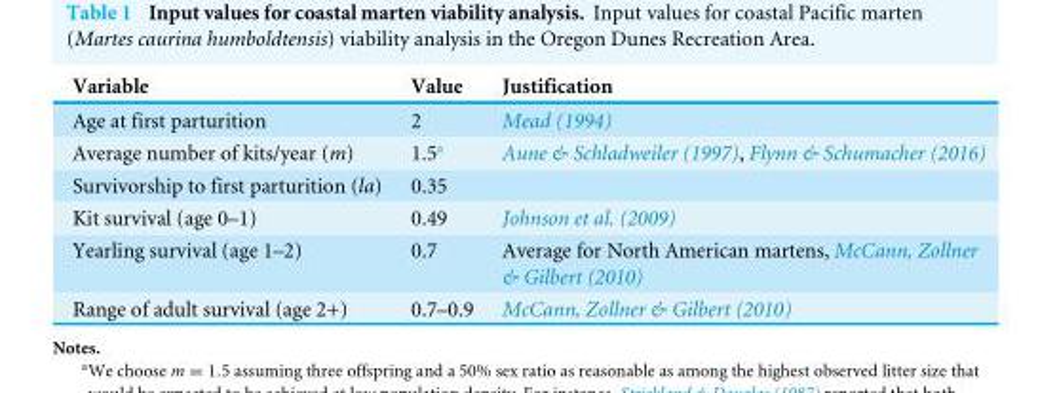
<table><thead><tr><td>Variable</td><td>Value</td><td>Justification</td></tr></thead><tbody><tr><td>Age at first parturition</td><td>2</td><td>Mead (1994)</td></tr><tr><td>Average number of kits/year (m)</td><td>1.5<sup>a</sup></td><td>Aune &amp; Schladweiler (1997), Flynn &amp; Schumacher (2016)</td></tr><tr><td>Survivorship to first parturition (la)</td><td>0.35</td><td></td></tr><tr><td>Kit survival (age 0–1)</td><td>0.49</td><td>Johnson et al. (2009)</td></tr><tr><td>Yearling survival (age 1–2)</td><td>0.7</td><td>Average for North American martens, McCann, Zollner &amp; Gilbert (2010)</td></tr><tr><td>Range of adult survival (age 2+)</td><td>0.7–0.9</td><td>McCann, Zollner &amp; Gilbert (2010)</td></tr></tbody></table>